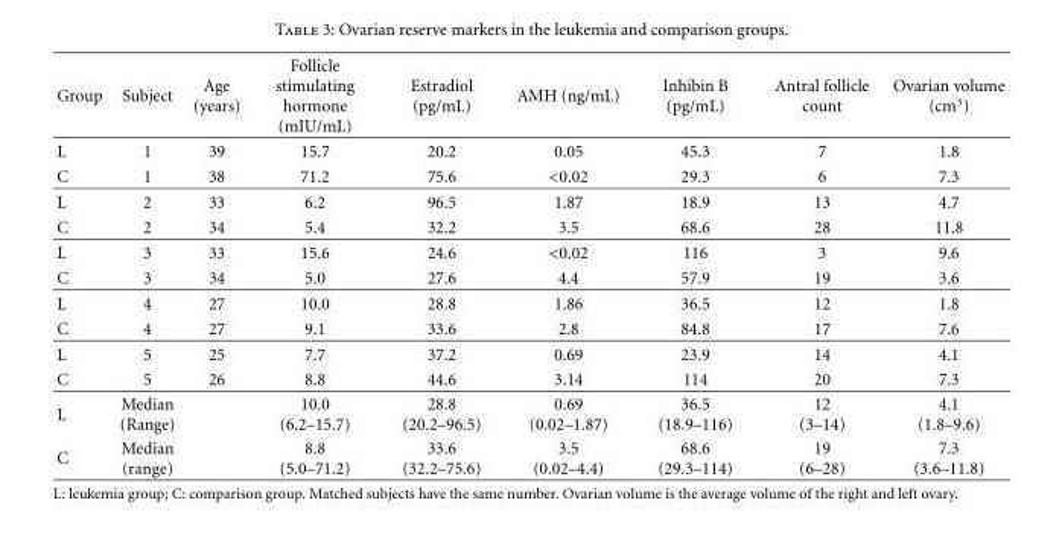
<table><thead><tr><td>Group</td><td>Subject</td><td>Age (years)</td><td>Follicle stimulating hormone (mIU/mL)</td><td>Estradiol (pg/mL)</td><td>AMH (ng/mL)</td><td>Inhibin B (pg/mL)</td><td>Antral follicle count</td><td>Ovarian volume (cm<sup>3</sup>)</td></tr></thead><tbody><tr><td>L</td><td>1</td><td>39</td><td>15.7</td><td>20.2</td><td>0.05</td><td>45.3</td><td>7</td><td>1.8</td></tr><tr><td>C</td><td>1</td><td>38</td><td>71.2</td><td>75.6</td><td>&lt;0.02</td><td>29.3</td><td>6</td><td>7.3</td></tr><tr><td>L</td><td>2</td><td>33</td><td>6.2</td><td>96.5</td><td>1.87</td><td>18.9</td><td>13</td><td>4.7</td></tr><tr><td>C</td><td>2</td><td>34</td><td>5.4</td><td>32.2</td><td>3.5</td><td>68.6</td><td>28</td><td>11.8</td></tr><tr><td>L</td><td>3</td><td>33</td><td>15.6</td><td>24.6</td><td>&lt;0.02</td><td>116</td><td>3</td><td>9.6</td></tr><tr><td>C</td><td>3</td><td>34</td><td>5.0</td><td>27.6</td><td>4.4</td><td>57.9</td><td>19</td><td>3.6</td></tr><tr><td>L</td><td>4</td><td>27</td><td>10.0</td><td>28.8</td><td>1.86</td><td>36.5</td><td>12</td><td>1.8</td></tr><tr><td>C</td><td>4</td><td>27</td><td>9.1</td><td>33.6</td><td>2.8</td><td>84.8</td><td>17</td><td>7.6</td></tr><tr><td>L</td><td>5</td><td>25</td><td>7.7</td><td>37.2</td><td>0.69</td><td>23.9</td><td>14</td><td>4.1</td></tr><tr><td>C</td><td>5</td><td>26</td><td>8.8</td><td>44.6</td><td>3.14</td><td>114</td><td>20</td><td>7.3</td></tr><tr><td>L</td><td>Median (Range)</td><td></td><td>10.0 (6.2–15.7)</td><td>28.8 (20.2–96.5)</td><td>0.69 (0.02–1.87)</td><td>36.5 (18.9–116)</td><td>12 (3–14)</td><td>4.1 (1.8–9.6)</td></tr><tr><td>C</td><td>Median (range)</td><td></td><td>8.8 (5.0–71.2)</td><td>33.6 (32.2–75.6)</td><td>3.5 (0.02–4.4)</td><td>68.6 (29.3–114)</td><td>19 (6–28)</td><td>7.3 (3.6–11.8)</td></tr></tbody></table>